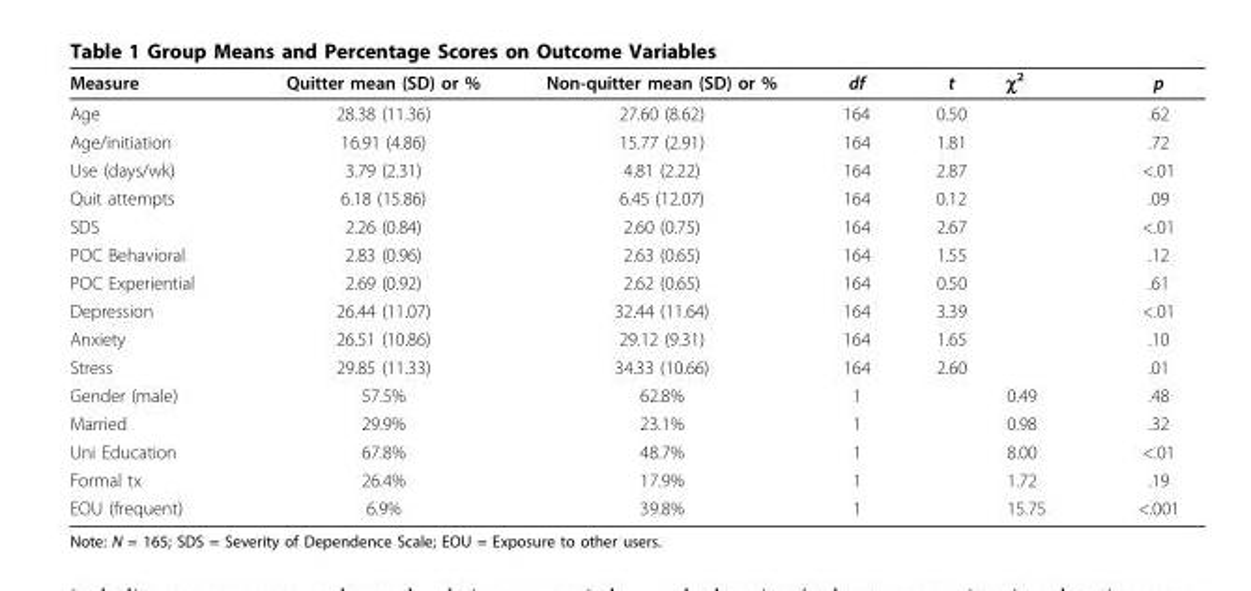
<table><thead><tr><td>Measure</td><td>Quitter mean (SD) or %</td><td>Non-quitter mean (SD) or %</td><td>df</td><td>t</td><td>χ<sup>2</sup></td><td>p</td></tr></thead><tbody><tr><td>Age</td><td>28.38 (11.36)</td><td>27.60 (8.62)</td><td>164</td><td>0.50</td><td></td><td>.62</td></tr><tr><td>Age/initiation</td><td>16.91 (4.86)</td><td>15.77 (2.91)</td><td>164</td><td>1.81</td><td></td><td>.72</td></tr><tr><td>Use (days/wk)</td><td>3.79 (2.31)</td><td>4.81 (2.22)</td><td>164</td><td>2.87</td><td></td><td>&lt;.01</td></tr><tr><td>Quit attempts</td><td>6.18 (15.86)</td><td>6.45 (12.07)</td><td>164</td><td>0.12</td><td></td><td>.09</td></tr><tr><td>SDS</td><td>2.26 (0.84)</td><td>2.60 (0.75)</td><td>164</td><td>2.67</td><td></td><td>&lt;.01</td></tr><tr><td>POC Behavioral</td><td>2.83 (0.96)</td><td>2.63 (0.65)</td><td>164</td><td>1.55</td><td></td><td>.12</td></tr><tr><td>POC Experiential</td><td>2.69 (0.92)</td><td>2.62 (0.65)</td><td>164</td><td>0.50</td><td></td><td>.61</td></tr><tr><td>Depression</td><td>26.44 (11.07)</td><td>32.44 (11.64)</td><td>164</td><td>3.39</td><td></td><td>&lt;.01</td></tr><tr><td>Anxiety</td><td>26.51 (10.86)</td><td>29.12 (9.31)</td><td>164</td><td>1.65</td><td></td><td>.10</td></tr><tr><td>Stress</td><td>29.85 (11.33)</td><td>34.33 (10.66)</td><td>164</td><td>2.60</td><td></td><td>.01</td></tr><tr><td>Gender (male)</td><td>57.5%</td><td>62.8%</td><td>1</td><td></td><td>0.49</td><td>.48</td></tr><tr><td>Married</td><td>29.9%</td><td>23.1%</td><td>1</td><td></td><td>0.98</td><td>.32</td></tr><tr><td>Uni Education</td><td>67.8%</td><td>48.7%</td><td>1</td><td></td><td>8.00</td><td>&lt;.01</td></tr><tr><td>Formal tx</td><td>26.4%</td><td>17.9%</td><td>1</td><td></td><td>1.72</td><td>.19</td></tr><tr><td>EOU (frequent)</td><td>6.9%</td><td>39.8%</td><td>1</td><td></td><td>15.75</td><td>&lt;.001</td></tr></tbody></table>